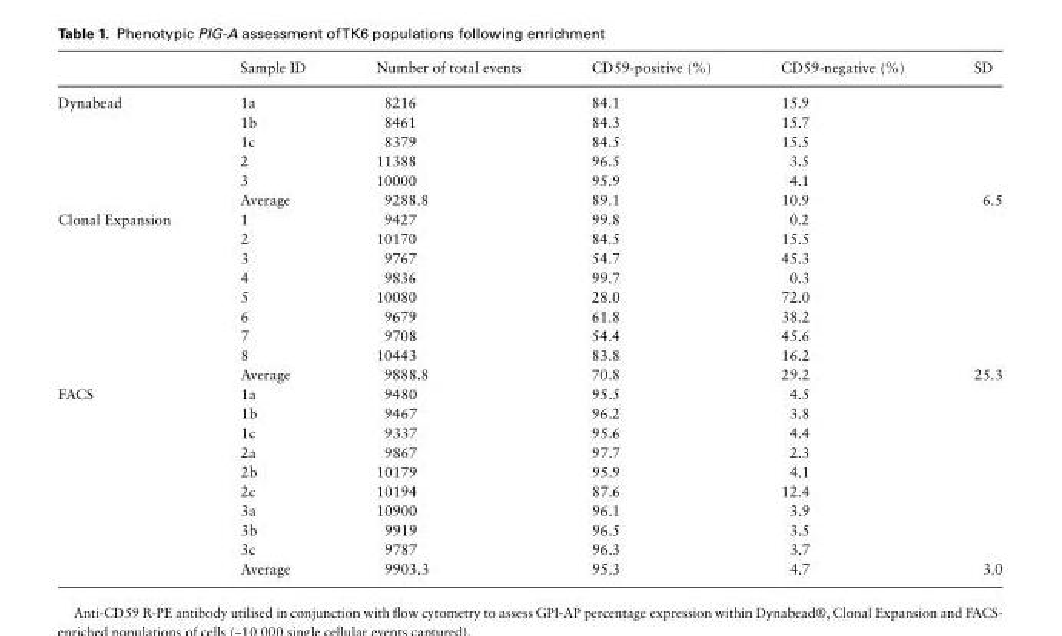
<table><thead><tr><td></td><td>Sample ID</td><td>Number of total events</td><td>CD59-positive (%)</td><td>CD59-negative (%)</td><td>SD</td></tr></thead><tbody><tr><td rowspan="6">Dynabead</td><td>1a</td><td>8216</td><td>84.1</td><td>15.9</td><td></td></tr><tr><td>1b</td><td>8461</td><td>84.3</td><td>15.7</td><td></td></tr><tr><td>1c</td><td>8379</td><td>84.5</td><td>15.5</td><td></td></tr><tr><td>2</td><td>11388</td><td>96.5</td><td>3.5</td><td></td></tr><tr><td>3</td><td>10000</td><td>95.9</td><td>4.1</td><td></td></tr><tr><td>Average</td><td>9288.8</td><td>89.1</td><td>10.9</td><td>6.5</td></tr><tr><td rowspan="9">Clonal Expansion</td><td>1</td><td>9427</td><td>99.8</td><td>0.2</td><td></td></tr><tr><td>2</td><td>10170</td><td>84.5</td><td>15.5</td><td></td></tr><tr><td>3</td><td>9767</td><td>54.7</td><td>45.3</td><td></td></tr><tr><td>4</td><td>9836</td><td>99.7</td><td>0.3</td><td></td></tr><tr><td>5</td><td>10080</td><td>28.0</td><td>72.0</td><td></td></tr><tr><td>6</td><td>9679</td><td>61.8</td><td>38.2</td><td></td></tr><tr><td>7</td><td>9708</td><td>54.4</td><td>45.6</td><td></td></tr><tr><td>8</td><td>10443</td><td>83.8</td><td>16.2</td><td></td></tr><tr><td>Average</td><td>9888.8</td><td>70.8</td><td>29.2</td><td>25.3</td></tr><tr><td rowspan="10">FACS</td><td>1a</td><td>9480</td><td>95.5</td><td>4.5</td><td></td></tr><tr><td>1b</td><td>9467</td><td>96.2</td><td>3.8</td><td></td></tr><tr><td>1c</td><td>9337</td><td>95.6</td><td>4.4</td><td></td></tr><tr><td>2a</td><td>9867</td><td>97.7</td><td>2.3</td><td></td></tr><tr><td>2b</td><td>10179</td><td>95.9</td><td>4.1</td><td></td></tr><tr><td>2c</td><td>10194</td><td>87.6</td><td>12.4</td><td></td></tr><tr><td>3a</td><td>10900</td><td>96.1</td><td>3.9</td><td></td></tr><tr><td>3b</td><td>9919</td><td>96.5</td><td>3.5</td><td></td></tr><tr><td>3c</td><td>9787</td><td>96.3</td><td>3.7</td><td></td></tr><tr><td>Average</td><td>9903.3</td><td>95.3</td><td>4.7</td><td>3.0</td></tr></tbody></table>